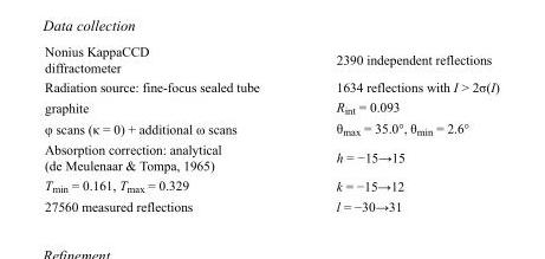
<table><tbody><tr><td>Nonius KappaCCD diffractometer</td><td>2390 independent reflections</td></tr><tr><td>Radiation source: fine-focus sealed tube</td><td>1634 reflections with I &gt; 2σ(I)</td></tr><tr><td>graphite</td><td>R<sub>int</sub> = 0.093</td></tr><tr><td>φ scans (κ = 0) + additional ω scans</td><td>θ<sub>max</sub> = 35.0°, θ<sub>min</sub> = 2.6°</td></tr><tr><td>Absorption correction: analytical (de Meulenaar &amp; Tompa, 1965)</td><td>h = −15→15</td></tr><tr><td>T<sub>min</sub> = 0.161, T<sub>max</sub> = 0.329</td><td>k = −15→12</td></tr><tr><td>27560 measured reflections</td><td>l = −30→31</td></tr></tbody></table>